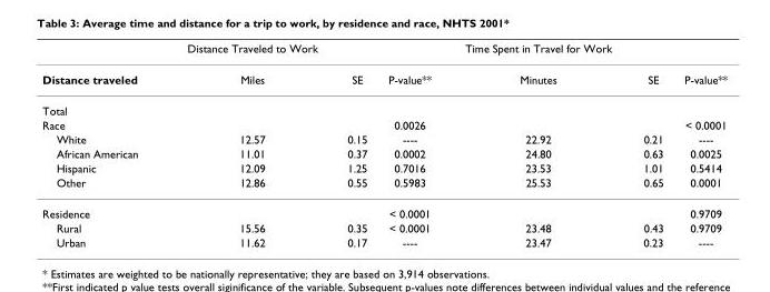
<table><thead><tr><td></td><td>Distance Traveled to Work</td><td></td><td></td><td>Time Spent in Travel for Work</td><td></td><td></td></tr></thead><tbody><tr><td>Distance traveled</td><td>Miles</td><td>SE</td><td>P-value**</td><td>Minutes</td><td>SE</td><td>P-value**</td></tr><tr><td colspan="7">Total</td></tr><tr><td>Race</td><td></td><td></td><td>0.0026</td><td></td><td></td><td>&lt; 0.0001</td></tr><tr><td>White</td><td>12.57</td><td>0.15</td><td>----</td><td>22.92</td><td>0.21</td><td>----</td></tr><tr><td>African American</td><td>11.01</td><td>0.37</td><td>0.0002</td><td>24.80</td><td>0.63</td><td>0.0025</td></tr><tr><td>Hispanic</td><td>12.09</td><td>1.25</td><td>0.7016</td><td>23.53</td><td>1.01</td><td>0.5414</td></tr><tr><td>Other</td><td>12.86</td><td>0.55</td><td>0.5983</td><td>25.53</td><td>0.65</td><td>0.0001</td></tr><tr><td>Residence</td><td></td><td></td><td>&lt; 0.0001</td><td></td><td></td><td>0.9709</td></tr><tr><td>Rural</td><td>15.56</td><td>0.35</td><td>&lt; 0.0001</td><td>23.48</td><td>0.43</td><td>0.9709</td></tr><tr><td>Urban</td><td>11.62</td><td>0.17</td><td>----</td><td>23.47</td><td>0.23</td><td>----</td></tr></tbody></table>